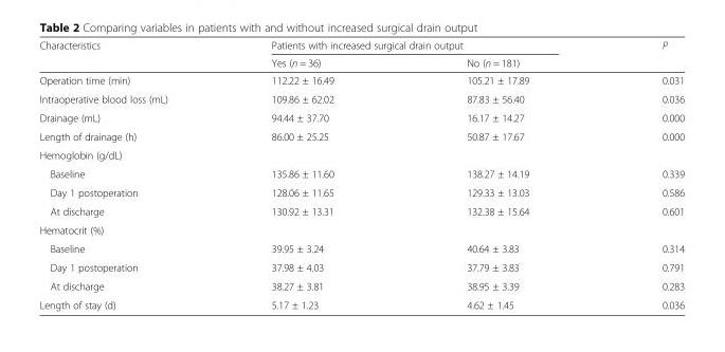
<table><thead><tr><td rowspan="2">Characteristics</td><td colspan="2">Patients with increased surgical drain output</td><td rowspan="2">P</td></tr><tr><td>Yes (n = 36)</td><td>No (n = 181)</td></tr></thead><tbody><tr><td>Operation time (min)</td><td>112.22 ± 16.49</td><td>105.21 ± 17.89</td><td>0.031</td></tr><tr><td>Intraoperative blood loss (mL)</td><td>109.86 ± 62.02</td><td>87.83 ± 56.40</td><td>0.036</td></tr><tr><td>Drainage (mL)</td><td>94.44 ± 37.70</td><td>16.17 ± 14.27</td><td>0.000</td></tr><tr><td>Length of drainage (h)</td><td>86.00 ± 25.25</td><td>50.87 ± 17.67</td><td>0.000</td></tr><tr><td colspan="4">Hemoglobin (g/dL)</td></tr><tr><td>Baseline</td><td>135.86 ± 11.60</td><td>138.27 ± 14.19</td><td>0.339</td></tr><tr><td>Day 1 postoperation</td><td>128.06 ± 11.65</td><td>129.33 ± 13.03</td><td>0.586</td></tr><tr><td>At discharge</td><td>130.92 ± 13.31</td><td>132.38 ± 15.64</td><td>0.601</td></tr><tr><td colspan="4">Hematocrit (%)</td></tr><tr><td>Baseline</td><td>39.95 ± 3.24</td><td>40.64 ± 3.83</td><td>0.314</td></tr><tr><td>Day 1 postoperation</td><td>37.98 ± 4.03</td><td>37.79 ± 3.83</td><td>0.791</td></tr><tr><td>At discharge</td><td>38.27 ± 3.81</td><td>38.95 ± 3.39</td><td>0.283</td></tr><tr><td>Length of stay (d)</td><td>5.17 ± 1.23</td><td>4.62 ± 1.45</td><td>0.036</td></tr></tbody></table>